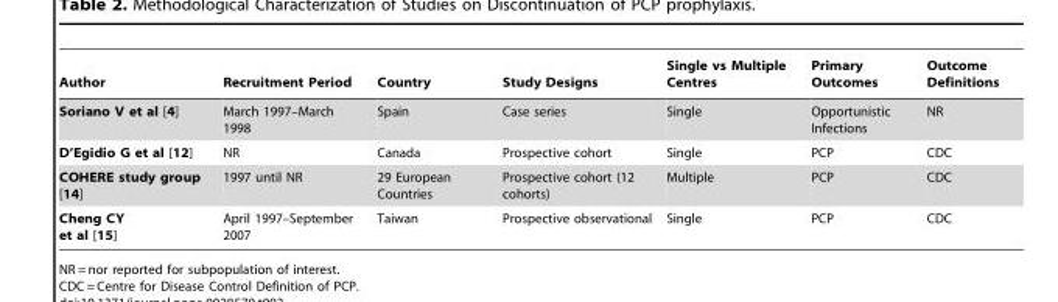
<table><thead><tr><td>Author</td><td>Recruitment Period</td><td>Country</td><td>Study Designs</td><td>Single vs Multiple Centres</td><td>Primary Outcomes</td><td>Outcome Definitions</td></tr></thead><tbody><tr><td>Soriano V et al [4]</td><td>March 1997–March 1998</td><td>Spain</td><td>Case series</td><td>Single</td><td>Opportunistic Infections</td><td>NR</td></tr><tr><td>D’Egidio G et al [12]</td><td>NR</td><td>Canada</td><td>Prospective cohort</td><td>Single</td><td>PCP</td><td>CDC</td></tr><tr><td>COHERE study group [14]</td><td>1997 until NR</td><td>29 European Countries</td><td>Prospective cohort (12 cohorts)</td><td>Multiple</td><td>PCP</td><td>CDC</td></tr><tr><td>Cheng CY et al [15]</td><td>April 1997–September 2007</td><td>Taiwan</td><td>Prospective observational</td><td>Single</td><td>PCP</td><td>CDC</td></tr></tbody></table>